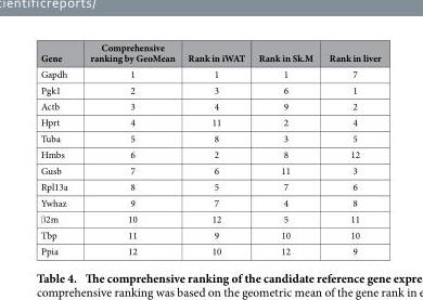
<table><thead><tr><td>Gene</td><td>Comprehensive ranking by GeoMean</td><td>Rank in iWAT</td><td>Rank in Sk.M</td><td>Rank in liver</td></tr></thead><tbody><tr><td>Gapdh</td><td>1</td><td>1</td><td>1</td><td>7</td></tr><tr><td>Pgk1</td><td>2</td><td>3</td><td>6</td><td>1</td></tr><tr><td>Actb</td><td>3</td><td>4</td><td>9</td><td>2</td></tr><tr><td>Hprt</td><td>4</td><td>11</td><td>2</td><td>4</td></tr><tr><td>Tuba</td><td>5</td><td>8</td><td>3</td><td>5</td></tr><tr><td>Hmbs</td><td>6</td><td>2</td><td>8</td><td>12</td></tr><tr><td>Gusb</td><td>7</td><td>6</td><td>11</td><td>3</td></tr><tr><td>Rpl13a</td><td>8</td><td>5</td><td>7</td><td>6</td></tr><tr><td>Ywhaz</td><td>9</td><td>7</td><td>4</td><td>8</td></tr><tr><td>β 2m</td><td>10</td><td>12</td><td>5</td><td>11</td></tr><tr><td>Tbp</td><td>11</td><td>9</td><td>10</td><td>10</td></tr><tr><td>Ppia</td><td>12</td><td>10</td><td>12</td><td>9</td></tr></tbody></table>